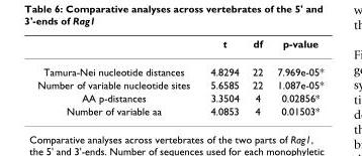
<table><thead><tr><td></td><td>t</td><td>df</td><td>p-value</td></tr></thead><tbody><tr><td>Tamura-Nei nucleotide distances</td><td>4.8294</td><td>22</td><td>7.969e-05*</td></tr><tr><td>Number of variable nucleotide sites</td><td>5.6585</td><td>22</td><td>1.087e-05*</td></tr><tr><td>AA p-distances</td><td>3.3504</td><td>4</td><td>0.02856*</td></tr><tr><td>Number of variable aa</td><td>4.0853</td><td>4</td><td>0.01503*</td></tr></tbody></table>